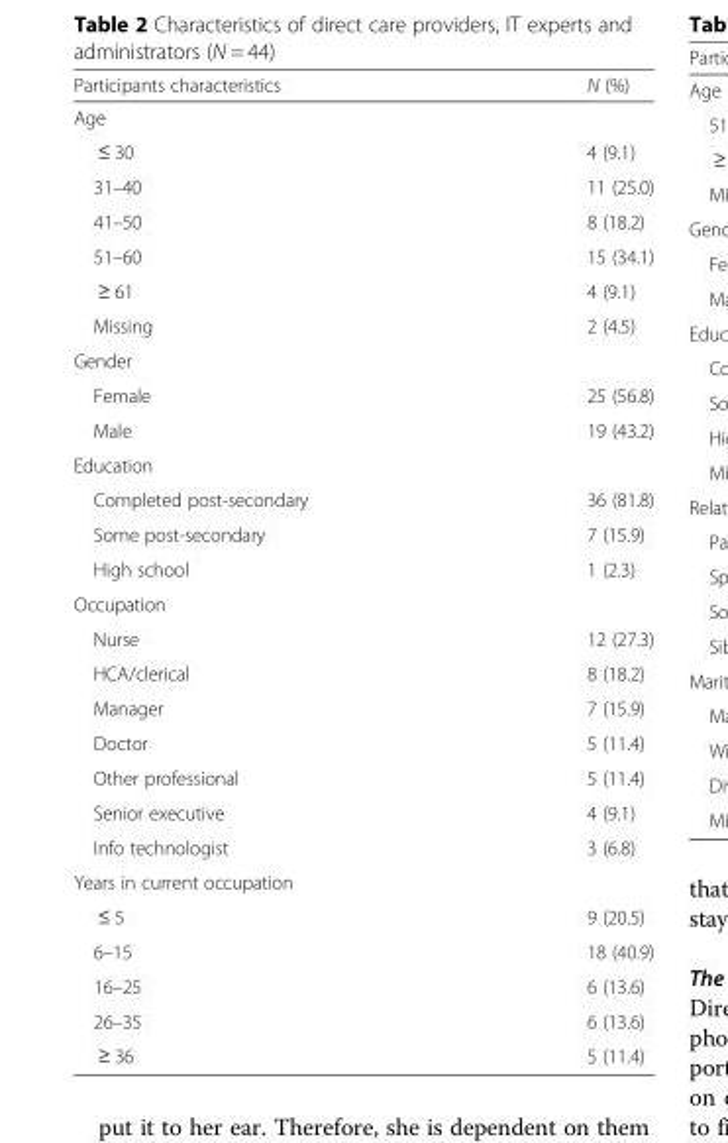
<table><thead><tr><td>Participants characteristics</td><td>N (%)</td></tr></thead><tbody><tr><td colspan="2">Age</td></tr><tr><td>≤ 30</td><td>4 (9.1)</td></tr><tr><td>31–40</td><td>11 (25.0)</td></tr><tr><td>41–50</td><td>8 (18.2)</td></tr><tr><td>51–60</td><td>15 (34.1)</td></tr><tr><td>≥ 61</td><td>4 (9.1)</td></tr><tr><td>Missing</td><td>2 (4.5)</td></tr><tr><td colspan="2">Gender</td></tr><tr><td>Female</td><td>25 (56.8)</td></tr><tr><td>Male</td><td>19 (43.2)</td></tr><tr><td colspan="2">Education</td></tr><tr><td>Completed post-secondary</td><td>36 (81.8)</td></tr><tr><td>Some post-secondary</td><td>7 (15.9)</td></tr><tr><td>High school</td><td>1 (2.3)</td></tr><tr><td colspan="2">Occupation</td></tr><tr><td>Nurse</td><td>12 (27.3)</td></tr><tr><td>HCA/clerical</td><td>8 (18.2)</td></tr><tr><td>Manager</td><td>7 (15.9)</td></tr><tr><td>Doctor</td><td>5 (11.4)</td></tr><tr><td>Other professional</td><td>5 (11.4)</td></tr><tr><td>Senior executive</td><td>4 (9.1)</td></tr><tr><td>Info technologist</td><td>3 (6.8)</td></tr><tr><td colspan="2">Years in current occupation</td></tr><tr><td>≤ 5</td><td>9 (20.5)</td></tr><tr><td>6–15</td><td>18 (40.9)</td></tr><tr><td>16–25</td><td>6 (13.6)</td></tr><tr><td>26–35</td><td>6 (13.6)</td></tr><tr><td>≥ 36</td><td>5 (11.4)</td></tr></tbody></table>